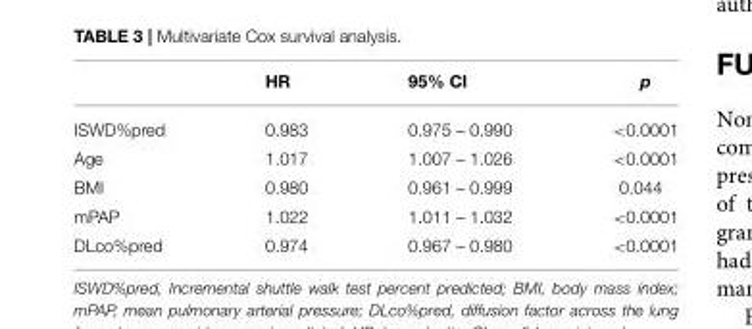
<table><thead><tr><td></td><td>HR</td><td>95% CI</td><td>p</td></tr></thead><tbody><tr><td>ISWD%pred</td><td>0.983</td><td>0.975 – 0.990</td><td>&lt;0.0001</td></tr><tr><td>Age</td><td>1.017</td><td>1.007 – 1.026</td><td>&lt;0.0001</td></tr><tr><td>BMI</td><td>0.980</td><td>0.961 – 0.999</td><td>0.044</td></tr><tr><td>mPAP</td><td>1.022</td><td>1.011 – 1.032</td><td>&lt;0.0001</td></tr><tr><td>DLco%pred</td><td>0.974</td><td>0.967 – 0.980</td><td>&lt;0.0001</td></tr></tbody></table>